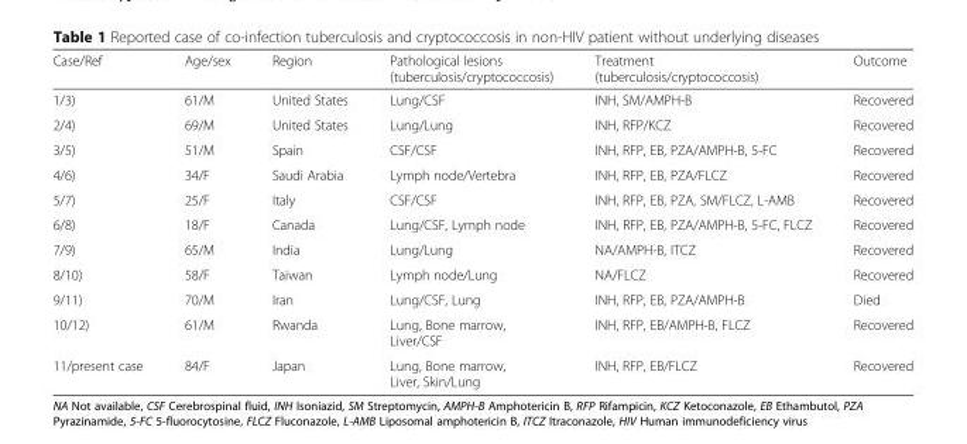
<table><thead><tr><td>Case/Ref</td><td>Age/sex</td><td>Region</td><td>Pathological lesions (tuberculosis/cryptococcosis)</td><td>Treatment (tuberculosis/cryptococcosis)</td><td>Outcome</td></tr></thead><tbody><tr><td>1/3)</td><td>61/M</td><td>United States</td><td>Lung/CSF</td><td>INH, SM/AMPH-B</td><td>Recovered</td></tr><tr><td>2/4)</td><td>69/M</td><td>United States</td><td>Lung/Lung</td><td>INH, RFP/KCZ</td><td>Recovered</td></tr><tr><td>3/5)</td><td>51/M</td><td>Spain</td><td>CSF/CSF</td><td>INH, RFP, EB, PZA/AMPH-B, 5-FC</td><td>Recovered</td></tr><tr><td>4/6)</td><td>34/F</td><td>Saudi Arabia</td><td>Lymph node/Vertebra</td><td>INH, RFP, EB, PZA/FLCZ</td><td>Recovered</td></tr><tr><td>5/7)</td><td>25/F</td><td>Italy</td><td>CSF/CSF</td><td>INH, RFP, EB, PZA, SM/FLCZ, L-AMB</td><td>Recovered</td></tr><tr><td>6/8)</td><td>18/F</td><td>Canada</td><td>Lung/CSF, Lymph node</td><td>INH, RFP, EB, PZA/AMPH-B, 5-FC, FLCZ</td><td>Recovered</td></tr><tr><td>7/9)</td><td>65/M</td><td>India</td><td>Lung/Lung</td><td>NA/AMPH-B, ITCZ</td><td>Recovered</td></tr><tr><td>8/10)</td><td>58/F</td><td>Taiwan</td><td>Lymph node/Lung</td><td>NA/FLCZ</td><td>Recovered</td></tr><tr><td>9/11)</td><td>70/M</td><td>Iran</td><td>Lung/CSF, Lung</td><td>INH, RFP, EB, PZA/AMPH-B</td><td>Died</td></tr><tr><td>10/12)</td><td>61/M</td><td>Rwanda</td><td>Lung, Bone marrow, Liver/CSF</td><td>INH, RFP, EB/AMPH-B, FLCZ</td><td>Recovered</td></tr><tr><td>11/present case</td><td>84/F</td><td>Japan</td><td>Lung, Bone marrow, Liver, Skin/Lung</td><td>INH, RFP, EB/FLCZ</td><td>Recovered</td></tr></tbody></table>